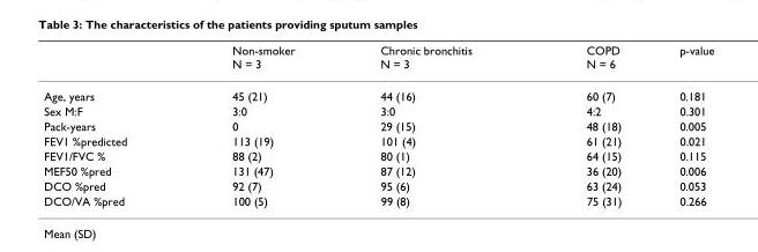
<table><thead><tr><td></td><td>Non-smoker N = 3</td><td>Chronic bronchitis N = 3</td><td>COPD N = 6</td><td>p-value</td></tr></thead><tbody><tr><td>Age, years</td><td>45 (21)</td><td>44 (16)</td><td>60 (7)</td><td>0.181</td></tr><tr><td>Sex M:F</td><td>3:0</td><td>3:0</td><td>4:2</td><td>0.301</td></tr><tr><td>Pack-years</td><td>0</td><td>29 (15)</td><td>48 (18)</td><td>0.005</td></tr><tr><td>FEV1 %predicted</td><td>113 (19)</td><td>101 (4)</td><td>61 (21)</td><td>0.021</td></tr><tr><td>FEV1/FVC %</td><td>88 (2)</td><td>80 (1)</td><td>64 (15)</td><td>0.115</td></tr><tr><td>MEF50 %pred</td><td>131 (47)</td><td>87 (12)</td><td>36 (20)</td><td>0.006</td></tr><tr><td>DCO %pred</td><td>92 (7)</td><td>95 (6)</td><td>63 (24)</td><td>0.053</td></tr><tr><td>DCO/VA %pred</td><td>100 (5)</td><td>99 (8)</td><td>75 (31)</td><td>0.266</td></tr></tbody></table>